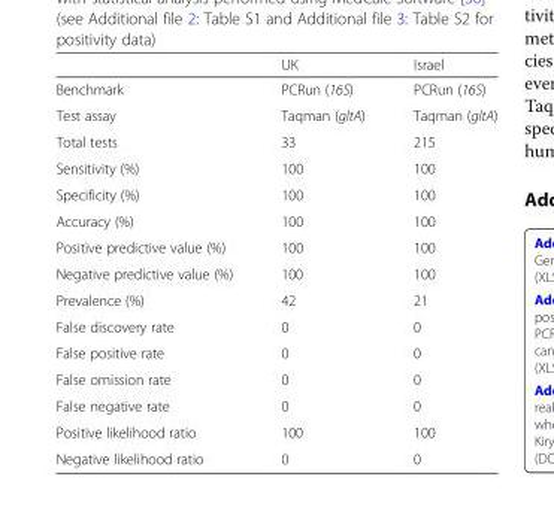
<table><thead><tr><td></td><td>UK</td><td>Israel</td></tr></thead><tbody><tr><td>Benchmark</td><td>PCRun (16S)</td><td>PCRun (16S)</td></tr><tr><td>Test assay</td><td>Taqman (gltA)</td><td>Taqman (gltA)</td></tr><tr><td>Total tests</td><td>33</td><td>215</td></tr><tr><td>Sensitivity (%)</td><td>100</td><td>100</td></tr><tr><td>Specificity (%)</td><td>100</td><td>100</td></tr><tr><td>Accuracy (%)</td><td>100</td><td>100</td></tr><tr><td>Positive predictive value (%)</td><td>100</td><td>100</td></tr><tr><td>Negative predictive value (%)</td><td>100</td><td>100</td></tr><tr><td>Prevalence (%)</td><td>42</td><td>21</td></tr><tr><td>False discovery rate</td><td>0</td><td>0</td></tr><tr><td>False positive rate</td><td>0</td><td>0</td></tr><tr><td>False omission rate</td><td>0</td><td>0</td></tr><tr><td>False negative rate</td><td>0</td><td>0</td></tr><tr><td>Positive likelihood ratio</td><td>100</td><td>100</td></tr><tr><td>Negative likelihood ratio</td><td>0</td><td>0</td></tr></tbody></table>